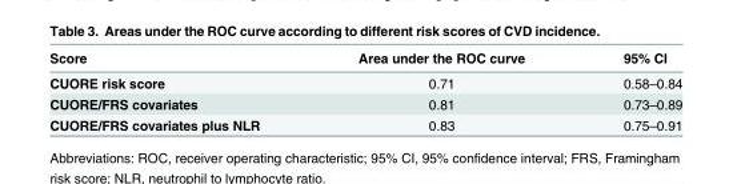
<table><thead><tr><td>Score</td><td>Area under the ROC curve</td><td>95% CI</td></tr></thead><tbody><tr><td>CUORE risk score</td><td>0.71</td><td>0.58–0.84</td></tr><tr><td>CUORE/FRS covariates</td><td>0.81</td><td>0.73–0.89</td></tr><tr><td>CUORE/FRS covariates plus NLR</td><td>0.83</td><td>0.75–0.91</td></tr></tbody></table>